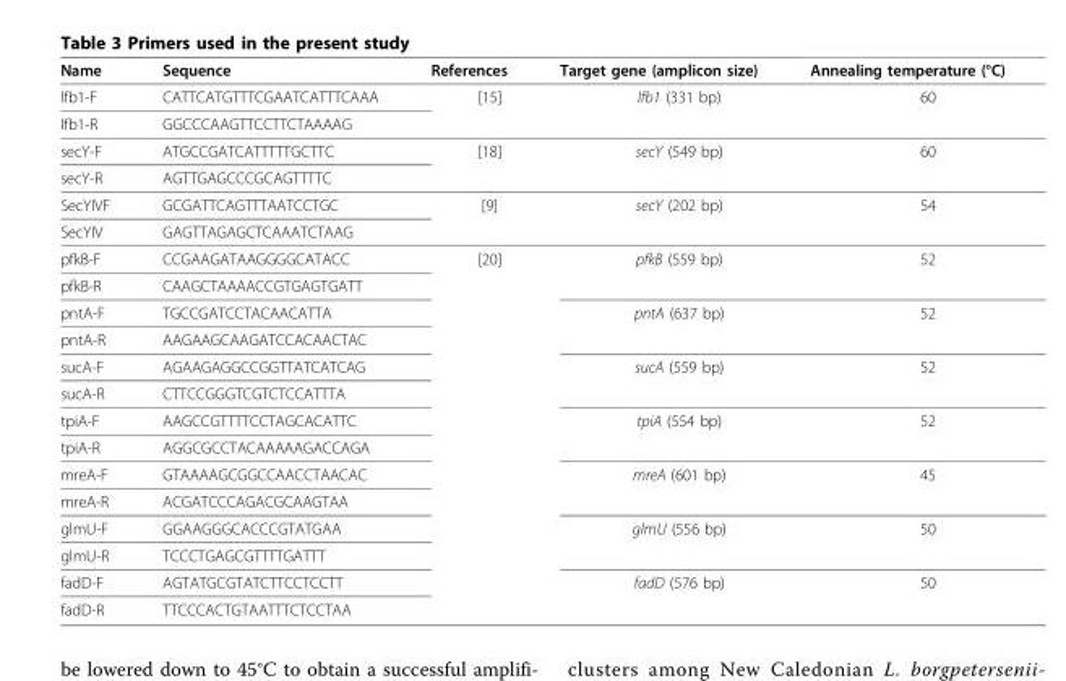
<table><thead><tr><td>Name</td><td>Sequence</td><td>References</td><td>Target gene (amplicon size)</td><td>Annealing temperature (°C)</td></tr></thead><tbody><tr><td>lfb1-F</td><td>CATTCATGTTTCGAATCATTTCAAA</td><td>[15]</td><td>lfb1 (331 bp)</td><td>60</td></tr><tr><td>lfb1-R</td><td>GGCCCAAGTTCCTTCTAAAAG</td><td></td><td></td><td></td></tr><tr><td>secY-F</td><td>ATGCCGATCATTTTTGCTTC</td><td>[18]</td><td>secY (549 bp)</td><td>60</td></tr><tr><td>secY-R</td><td>AGTTGAGCCCGCAGTTTTC</td><td></td><td></td><td></td></tr><tr><td>SecYIVF</td><td>GCGATTCAGTTTAATCCTGC</td><td>[9]</td><td>secY (202 bp)</td><td>54</td></tr><tr><td>SecYIV</td><td>GAGTTAGAGCTCAAATCTAAG</td><td></td><td></td><td></td></tr><tr><td>pfkB-F</td><td>CCGAAGATAAGGGGCATACC</td><td>[20]</td><td>pfkB (559 bp)</td><td>52</td></tr><tr><td>pfkB-R</td><td>CAAGCTAAAACCGTGAGTGATT</td><td></td><td></td><td></td></tr><tr><td>pntA-F</td><td>TGCCGATCCTACAACATTA</td><td></td><td>pntA (637 bp)</td><td>52</td></tr><tr><td>pntA-R</td><td>AAGAAGCAAGATCCACAACTAC</td><td></td><td></td><td></td></tr><tr><td>sucA-F</td><td>AGAAGAGGCCGGTTATCATCAG</td><td></td><td>sucA (559 bp)</td><td>52</td></tr><tr><td>sucA-R</td><td>CTTCCGGGTCGTCTCCATTTA</td><td></td><td></td><td></td></tr><tr><td>tpiA-F</td><td>AAGCCGTTTTCCTAGCACATTC</td><td></td><td>tpiA (554 bp)</td><td>52</td></tr><tr><td>tpiA-R</td><td>AGGCGCCTACAAAAAGACCAGA</td><td></td><td></td><td></td></tr><tr><td>mreA-F</td><td>GTAAAAGCGGCCAACCTAACAC</td><td></td><td>mreA (601 bp)</td><td>45</td></tr><tr><td>mreA-R</td><td>ACGATCCCAGACGCAAGTAA</td><td></td><td></td><td></td></tr><tr><td>glmU-F</td><td>GGAAGGGCACCCGTATGAA</td><td></td><td>glmU (556 bp)</td><td>50</td></tr><tr><td>glmU-R</td><td>TCCCTGAGCGTTTTGATTT</td><td></td><td></td><td></td></tr><tr><td>fadD-F</td><td>AGTATGCGTATCTTCCTCCTT</td><td></td><td>fadD (576 bp)</td><td>50</td></tr><tr><td>fadD-R</td><td>TTCCCACTGTAATTTCTCCTAA</td><td></td><td></td><td></td></tr></tbody></table>